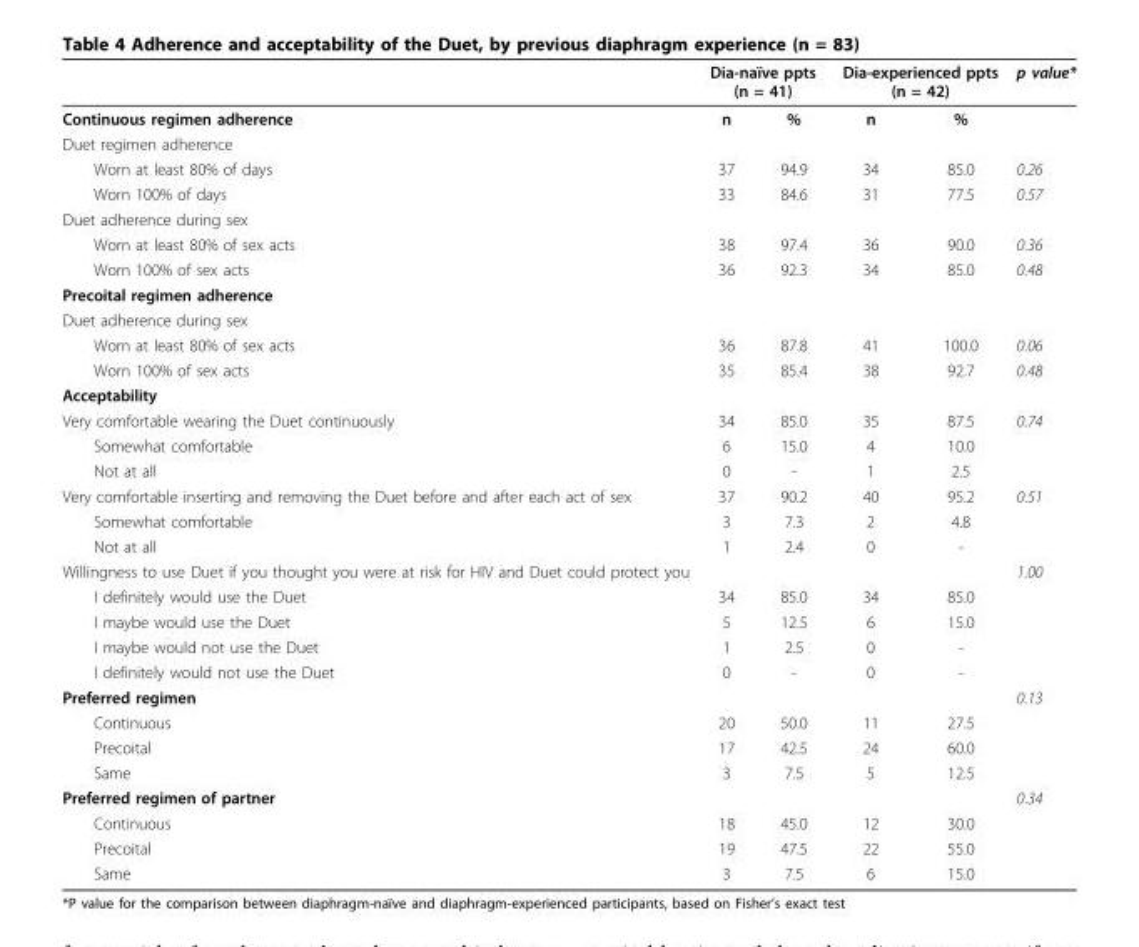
<table><thead><tr><td rowspan="2">Continuous regimen adherence</td><td colspan="2">Dia-naïve ppts (n = 41)</td><td colspan="2">Dia-experienced ppts (n = 42)</td><td rowspan="2">p value*</td></tr><tr><td>n</td><td>%</td><td>n</td><td>%</td></tr></thead><tbody><tr><td colspan="6">Duet regimen adherence</td></tr><tr><td>Worn at least 80% of days</td><td>37</td><td>94.9</td><td>34</td><td>85.0</td><td>0.26</td></tr><tr><td>Worn 100% of days</td><td>33</td><td>84.6</td><td>31</td><td>77.5</td><td>0.57</td></tr><tr><td colspan="6">Duet adherence during sex</td></tr><tr><td>Worn at least 80% of sex acts</td><td>38</td><td>97.4</td><td>36</td><td>90.0</td><td>0.36</td></tr><tr><td>Worn 100% of sex acts</td><td>36</td><td>92.3</td><td>34</td><td>85.0</td><td>0.48</td></tr><tr><td colspan="6">Precoital regimen adherence</td></tr><tr><td colspan="6">Duet adherence during sex</td></tr><tr><td>Worn at least 80% of sex acts</td><td>36</td><td>87.8</td><td>41</td><td>100.0</td><td>0.06</td></tr><tr><td>Worn 100% of sex acts</td><td>35</td><td>85.4</td><td>38</td><td>92.7</td><td>0.48</td></tr><tr><td colspan="6">Acceptability</td></tr><tr><td>Very comfortable wearing the Duet continuously</td><td>34</td><td>85.0</td><td>35</td><td>87.5</td><td>0.74</td></tr><tr><td>Somewhat comfortable</td><td>6</td><td>15.0</td><td>4</td><td>10.0</td><td></td></tr><tr><td>Not at all</td><td>0</td><td>-</td><td>1</td><td>2.5</td><td></td></tr><tr><td>Very comfortable inserting and removing the Duet before and after each act of sex</td><td>37</td><td>90.2</td><td>40</td><td>95.2</td><td>0.51</td></tr><tr><td>Somewhat comfortable</td><td>3</td><td>7.3</td><td>2</td><td>4.8</td><td></td></tr><tr><td>Not at all</td><td>1</td><td>2.4</td><td>0</td><td>-</td><td></td></tr><tr><td>Willingness to use Duet if you thought you were at risk for HIV and Duet could protect you</td><td></td><td></td><td></td><td></td><td>1.00</td></tr><tr><td>I definitely would use the Duet</td><td>34</td><td>85.0</td><td>34</td><td>85.0</td><td></td></tr><tr><td>I maybe would use the Duet</td><td>5</td><td>12.5</td><td>6</td><td>15.0</td><td></td></tr><tr><td>I maybe would not use the Duet</td><td>1</td><td>2.5</td><td>0</td><td>-</td><td></td></tr><tr><td>I definitely would not use the Duet</td><td>0</td><td>-</td><td>0</td><td>-</td><td></td></tr><tr><td>Preferred regimen</td><td></td><td></td><td></td><td></td><td>0.13</td></tr><tr><td>Continuous</td><td>20</td><td>50.0</td><td>11</td><td>27.5</td><td></td></tr><tr><td>Precoital</td><td>17</td><td>42.5</td><td>24</td><td>60.0</td><td></td></tr><tr><td>Same</td><td>3</td><td>7.5</td><td>5</td><td>12.5</td><td></td></tr><tr><td>Preferred regimen of partner</td><td></td><td></td><td></td><td></td><td>0.34</td></tr><tr><td>Continuous</td><td>18</td><td>45.0</td><td>12</td><td>30.0</td><td></td></tr><tr><td>Precoital</td><td>19</td><td>47.5</td><td>22</td><td>55.0</td><td></td></tr><tr><td>Same</td><td>3</td><td>7.5</td><td>6</td><td>15.0</td><td></td></tr></tbody></table>